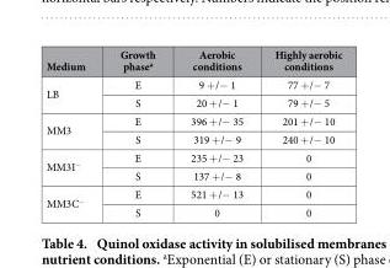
<table><thead><tr><td>Medium</td><td>Growth phase<sup>a</sup></td><td>Aerobic conditions</td><td>Highly aerobic conditions</td></tr></thead><tbody><tr><td rowspan="2">LB</td><td>E</td><td>9 + /− 1</td><td>77 + /− 7</td></tr><tr><td>S</td><td>20 + /− 1</td><td>79 + /− 5</td></tr><tr><td rowspan="2">MM3</td><td>E</td><td>396 + /− 35</td><td>201 + /− 10</td></tr><tr><td>S</td><td>319 + /− 9</td><td>240 + /− 10</td></tr><tr><td rowspan="2">MM3I<sup>−</sup></td><td>E</td><td>235 + /− 23</td><td>0</td></tr><tr><td>S</td><td>137 + /− 8</td><td>0</td></tr><tr><td rowspan="2">MM3C<sup>−</sup></td><td>E</td><td>521 + /− 13</td><td>0</td></tr><tr><td>S</td><td>0</td><td>0</td></tr></tbody></table>